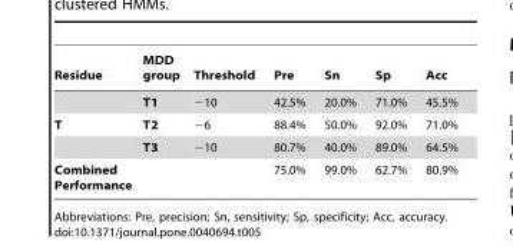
<table><thead><tr><td>Residue</td><td>MDD group</td><td>Threshold</td><td>Pre</td><td>Sn</td><td>Sp</td><td>Acc</td></tr></thead><tbody><tr><td></td><td>T1</td><td>−10</td><td>42.5%</td><td>20.0%</td><td>71.0%</td><td>45.5%</td></tr><tr><td rowspan="2">T</td><td>T2</td><td>−6</td><td>88.4%</td><td>50.0%</td><td>92.0%</td><td>71.0%</td></tr><tr><td>T3</td><td>−10</td><td>80.7%</td><td>40.0%</td><td>89.0%</td><td>64.5%</td></tr><tr><td>Combined Performance</td><td></td><td></td><td>75.0%</td><td>99.0%</td><td>62.7%</td><td>80.9%</td></tr></tbody></table>